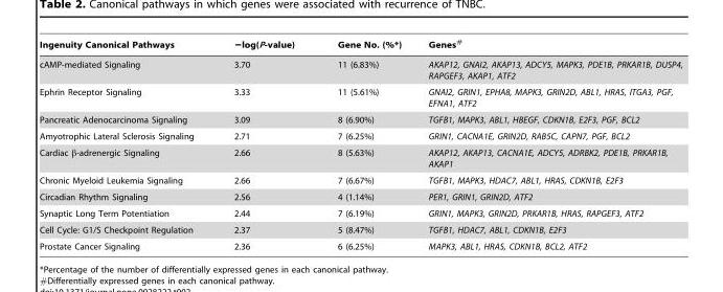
<table><thead><tr><td>Ingenuity Canonical Pathways</td><td>−log(P-value)</td><td>Gene No. (%*)</td><td>Genes#</td></tr></thead><tbody><tr><td>cAMP-mediated Signaling</td><td>3.70</td><td>11 (6.83%)</td><td>AKAP12, GNAI2, AKAP13, ADCY5, MAPK3, PDE1B, PRKAR1B, DUSP4, RAPGEF3, AKAP1, ATF2</td></tr><tr><td>Ephrin Receptor Signaling</td><td>3.33</td><td>11 (5.61%)</td><td>GNAI2, GRIN1, EPHA8, MAPK3, GRIN2D, ABL1, HRAS, ITGA3, PGF, EFNA1, ATF2</td></tr><tr><td>Pancreatic Adenocarcinoma Signaling</td><td>3.09</td><td>8 (6.90%)</td><td>TGFB1, MAPK3, ABL1, HBEGF, CDKN1B, E2F3, PGF, BCL2</td></tr><tr><td>Amyotrophic Lateral Sclerosis Signaling</td><td>2.71</td><td>7 (6.25%)</td><td>GRIN1, CACNA1E, GRIN2D, RAB5C, CAPN7, PGF, BCL2</td></tr><tr><td>Cardiac β-adrenergic Signaling</td><td>2.66</td><td>8 (5.63%)</td><td>AKAP12, AKAP13, CACNA1E, ADCY5, ADRBK2, PDE1B, PRKAR1B, AKAP1</td></tr><tr><td>Chronic Myeloid Leukemia Signaling</td><td>2.66</td><td>7 (6.67%)</td><td>TGFB1, MAPK3, HDAC7, ABL1, HRAS, CDKN1B, E2F3</td></tr><tr><td>Circadian Rhythm Signaling</td><td>2.56</td><td>4 (1.14%)</td><td>PER1, GRIN1, GRIN2D, ATF2</td></tr><tr><td>Synaptic Long Term Potentiation</td><td>2.44</td><td>7 (6.19%)</td><td>GRIN1, MAPK3, GRIN2D, PRKAR1B, HRAS, RAPGEF3, ATF2</td></tr><tr><td>Cell Cycle: G1/S Checkpoint Regulation</td><td>2.37</td><td>5 (8.47%)</td><td>TGFB1, HDAC7, ABL1, CDKN1B, E2F3</td></tr><tr><td>Prostate Cancer Signaling</td><td>2.36</td><td>6 (6.25%)</td><td>MAPK3, ABL1, HRAS, CDKN1B, BCL2, ATF2</td></tr></tbody></table>